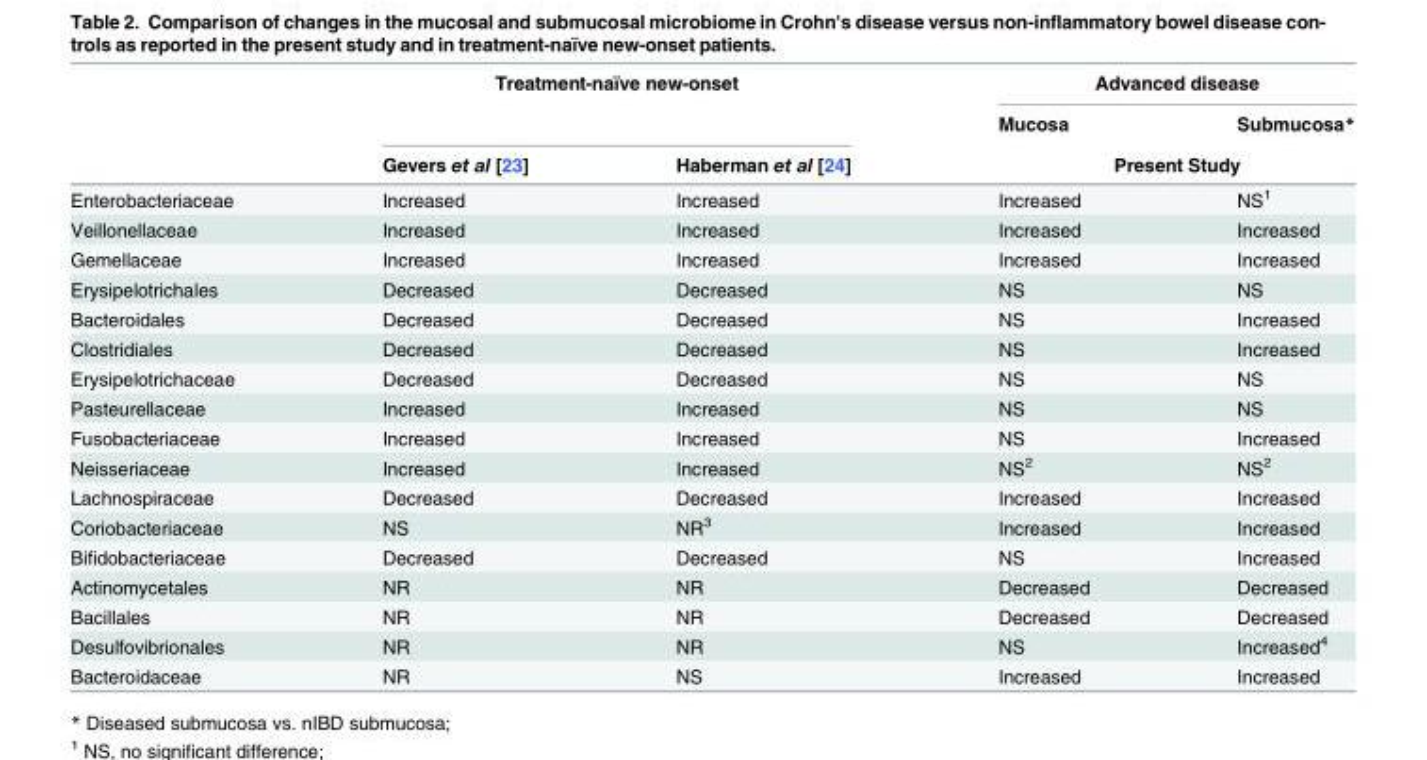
<table><thead><tr><td rowspan="3"></td><td colspan="2">Treatment-naïve new-onset</td><td colspan="2">Advanced disease</td></tr><tr><td rowspan="2">Gevers et al [23]</td><td rowspan="2">Haberman et al [24]</td><td>Mucosa</td><td>Submucosa*</td></tr><tr><td colspan="2">Present Study</td></tr></thead><tbody><tr><td>Enterobacteriaceae</td><td>Increased</td><td>Increased</td><td>Increased</td><td>NS<sup>1</sup></td></tr><tr><td>Veillonellaceae</td><td>Increased</td><td>Increased</td><td>Increased</td><td>Increased</td></tr><tr><td>Gemellaceae</td><td>Increased</td><td>Increased</td><td>Increased</td><td>Increased</td></tr><tr><td>Erysipelotrichales</td><td>Decreased</td><td>Decreased</td><td>NS</td><td>NS</td></tr><tr><td>Bacteroidales</td><td>Decreased</td><td>Decreased</td><td>NS</td><td>Increased</td></tr><tr><td>Clostridiales</td><td>Decreased</td><td>Decreased</td><td>NS</td><td>Increased</td></tr><tr><td>Erysipelotrichaceae</td><td>Decreased</td><td>Decreased</td><td>NS</td><td>NS</td></tr><tr><td>Pasteurellaceae</td><td>Increased</td><td>Increased</td><td>NS</td><td>NS</td></tr><tr><td>Fusobacteriaceae</td><td>Increased</td><td>Increased</td><td>NS</td><td>Increased</td></tr><tr><td>Neisseriaceae</td><td>Increased</td><td>Increased</td><td>NS<sup>2</sup></td><td>NS<sup>2</sup></td></tr><tr><td>Lachnospiraceae</td><td>Decreased</td><td>Decreased</td><td>Increased</td><td>Increased</td></tr><tr><td>Coriobacteriaceae</td><td>NS</td><td>NR<sup>3</sup></td><td>Increased</td><td>Increased</td></tr><tr><td>Bifidobacteriaceae</td><td>Decreased</td><td>Decreased</td><td>NS</td><td>Increased</td></tr><tr><td>Actinomycetales</td><td>NR</td><td>NR</td><td>Decreased</td><td>Decreased</td></tr><tr><td>Bacillales</td><td>NR</td><td>NR</td><td>Decreased</td><td>Decreased</td></tr><tr><td>Desulfovibrionales</td><td>NR</td><td>NR</td><td>NS</td><td>Increased<sup>4</sup></td></tr><tr><td>Bacteroidaceae</td><td>NR</td><td>NS</td><td>Increased</td><td>Increased</td></tr></tbody></table>